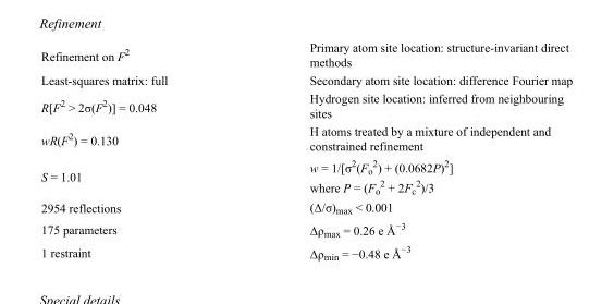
<table><tbody><tr><td>Refinement on F<sup>2</sup></td><td>Primary atom site location: structure-invariant direct methods</td></tr><tr><td>Least-squares matrix: full</td><td>Secondary atom site location: difference Fourier map</td></tr><tr><td>R[F<sup>2</sup> &gt; 2σ(F<sup>2</sup>)] = 0.048</td><td>Hydrogen site location: inferred from neighbouring sites</td></tr><tr><td>wR(F<sup>2</sup>) = 0.130</td><td>H atoms treated by a mixture of independent and constrained refinement</td></tr><tr><td>S = 1.01</td><td>w = 1/[σ<sup>2</sup>(F<sub>o</sub> <sup>2</sup>) + (0.0682P)<sup>2</sup>] where P = (F<sub>o</sub> <sup>2</sup> + 2F<sub>c</sub> <sup>2</sup>)/3</td></tr><tr><td>2954 reflections</td><td>(Δ/σ)<sub>max</sub> &lt; 0.001</td></tr><tr><td>175 parameters</td><td>Δρ<sub>max</sub> = 0.26 e Å<sup>−3</sup></td></tr><tr><td>1 restraint</td><td>Δρ<sub>min</sub> = −0.48 e Å<sup>−3</sup></td></tr></tbody></table>